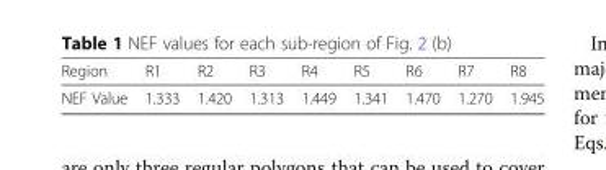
<table><thead><tr><td>Region</td><td>R1</td><td>R2</td><td>R3</td><td>R4</td><td>R5</td><td>R6</td><td>R7</td><td>R8</td></tr></thead><tbody><tr><td>NEF Value</td><td>1.333</td><td>1.420</td><td>1.313</td><td>1.449</td><td>1.341</td><td>1.470</td><td>1.270</td><td>1.945</td></tr></tbody></table>